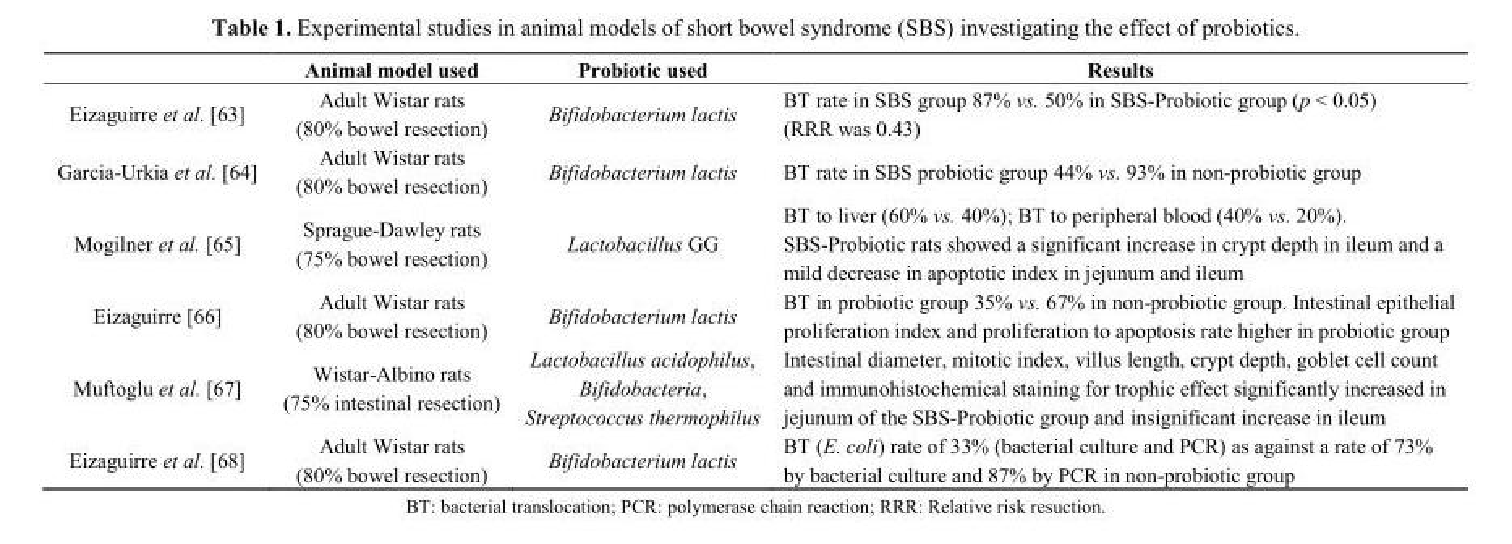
<table><thead><tr><td></td><td>Animal model used</td><td>Probiotic used</td><td>Results</td></tr></thead><tbody><tr><td>Eizaguirre et al. [63]</td><td>Adult Wistar rats (80% bowel resection)</td><td>Bifidobacterium lactis</td><td>BT rate in SBS group 87% vs. 50% in SBS-Probiotic group (p &lt; 0.05) (RRR was 0.43)</td></tr><tr><td>Garcia-Urkia et al. [64]</td><td>Adult Wistar rats (80% bowel resection)</td><td>Bifidobacterium lactis</td><td>BT rate in SBS probiotic group 44% vs. 93% in non-probiotic group</td></tr><tr><td>Mogilner et al. [65]</td><td>Sprague-Dawley rats (75% bowel resection)</td><td>Lactobacillus GG</td><td>BT to liver (60% vs. 40%); BT to peripheral blood (40% vs. 20%). SBS-Probiotic rats showed a significant increase in crypt depth in ileum and a mild decrease in apoptotic index in jejunum and ileum</td></tr><tr><td>Eizaguirre [66]</td><td>Adult Wistar rats (80% bowel resection)</td><td>Bifidobacterium lactis</td><td>BT in probiotic group 35% vs. 67% in non-probiotic group. Intestinal epithelial proliferation index and proliferation to apoptosis rate higher in probiotic group</td></tr><tr><td>Muftoglu et al. [67]</td><td>Wistar-Albino rats (75% intestinal resection)</td><td>Lactobacillus acidophilus, Bifidobacteria, Streptococcus thermophilus</td><td>Intestinal diameter, mitotic index, villus length, crypt depth, goblet cell count and immunohistochemical staining for trophic effect significantly increased in jejunum of the SBS-Probiotic group and insignificant increase in ileum</td></tr><tr><td>Eizaguirre et al. [68]</td><td>Adult Wistar rats (80% bowel resection)</td><td>Bifidobacterium lactis</td><td>BT (E. coli) rate of 33% (bacterial culture and PCR) as against a rate of 73% by bacterial culture and 87% by PCR in non-probiotic group</td></tr></tbody></table>